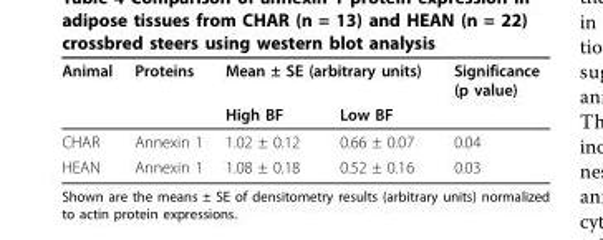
<table><thead><tr><td rowspan="2">Animal</td><td rowspan="2">Proteins</td><td colspan="2">Mean ± SE (arbitrary units)</td><td rowspan="2">Significance (p value)</td></tr><tr><td>High BF</td><td>Low BF</td></tr></thead><tbody><tr><td>CHAR</td><td>Annexin 1</td><td>1.02 ± 0.12</td><td>0.66 ± 0.07</td><td>0.04</td></tr><tr><td>HEAN</td><td>Annexin 1</td><td>1.08 ± 0.18</td><td>0.52 ± 0.16</td><td>0.03</td></tr></tbody></table>